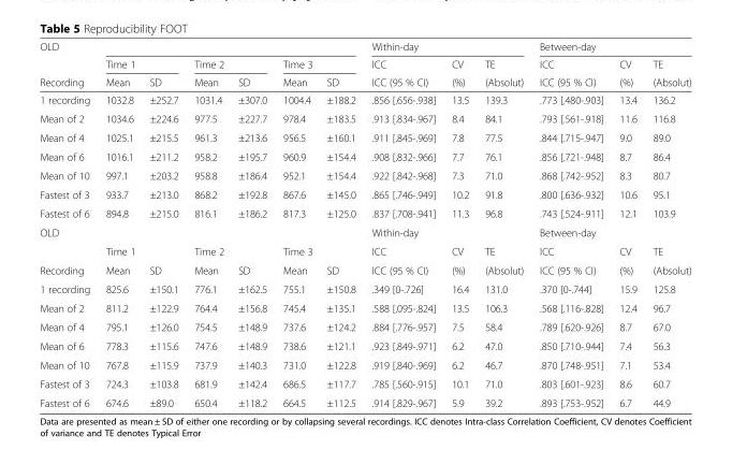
<table><thead><tr><td rowspan="3">OLD Recording</td><td></td><td></td><td></td><td></td><td></td><td></td><td colspan="3">Within-day</td><td colspan="3">Between-day</td></tr><tr><td colspan="2">Time 1</td><td colspan="2">Time 2</td><td colspan="2">Time 3</td><td rowspan="2">ICC ICC (95 % CI)</td><td rowspan="2">CV (%)</td><td rowspan="2">TE (Absolut)</td><td rowspan="2">ICC ICC (95 % CI)</td><td rowspan="2">CV (%)</td><td rowspan="2">TE (Absolut)</td></tr><tr><td>Mean</td><td>SD</td><td>Mean</td><td>SD</td><td>Mean</td><td>SD</td></tr></thead><tbody><tr><td>1 recording</td><td>1032.8</td><td>±252.7</td><td>1031.4</td><td>±307.0</td><td>1004.4</td><td>±188.2</td><td>.856 [.656-.938]</td><td>13.5</td><td>139.3</td><td>.773 [.480-.903]</td><td>13.4</td><td>136.2</td></tr><tr><td>Mean of 2</td><td>1034.6</td><td>±224.6</td><td>977.5</td><td>±227.7</td><td>978.4</td><td>±183.5</td><td>.913 [.834-.967]</td><td>8.4</td><td>84.1</td><td>.793 [.561-.918]</td><td>11.6</td><td>116.8</td></tr><tr><td>Mean of 4</td><td>1025.1</td><td>±215.5</td><td>961.3</td><td>±213.6</td><td>956.5</td><td>±160.1</td><td>.911 [.845-.969]</td><td>7.8</td><td>77.5</td><td>.844 [.715-.947]</td><td>9.0</td><td>89.0</td></tr><tr><td>Mean of 6</td><td>1016.1</td><td>±211.2</td><td>958.2</td><td>±195.7</td><td>960.9</td><td>±154.4</td><td>.908 [.832-.966]</td><td>7.7</td><td>76.1</td><td>.856 [.721-.948]</td><td>8.7</td><td>86.4</td></tr><tr><td>Mean of 10</td><td>997.1</td><td>±203.2</td><td>958.8</td><td>±186.4</td><td>952.1</td><td>±154.4</td><td>.922 [.842-.968]</td><td>7.3</td><td>71.0</td><td>.868 [.742-.952]</td><td>8.3</td><td>80.7</td></tr><tr><td>Fastest of 3</td><td>933.7</td><td>±213.0</td><td>868.2</td><td>±192.8</td><td>867.6</td><td>±145.0</td><td>.865 [.746-.949]</td><td>10.2</td><td>91.8</td><td>.800 [.636-.932]</td><td>10.6</td><td>95.1</td></tr><tr><td>Fastest of 6</td><td>894.8</td><td>±215.0</td><td>816.1</td><td>±186.2</td><td>817.3</td><td>±125.0</td><td>.837 [.708-.941]</td><td>11.3</td><td>96.8</td><td>.743 [.524-.911]</td><td>12.1</td><td>103.9</td></tr><tr><td rowspan="2">OLD</td><td colspan="6"></td><td colspan="3">Within-day</td><td colspan="3">Between-day</td></tr><tr><td colspan="2">Time 1</td><td colspan="2">Time 2</td><td colspan="2">Time 3</td><td>ICC</td><td>CV</td><td>TE</td><td>ICC</td><td>CV</td><td>TE</td></tr><tr><td>Recording</td><td>Mean</td><td>SD</td><td>Mean</td><td>SD</td><td>Mean</td><td>SD</td><td>ICC (95 % CI)</td><td>(%)</td><td>(Absolut)</td><td>ICC (95 % CI)</td><td>(%)</td><td>(Absolut)</td></tr><tr><td>1 recording</td><td>825.6</td><td>±150.1</td><td>776.1</td><td>±162.5</td><td>755.1</td><td>±150.8</td><td>.349 [0-.726]</td><td>16.4</td><td>131.0</td><td>.370 [0-.744]</td><td>15.9</td><td>125.8</td></tr><tr><td>Mean of 2</td><td>811.2</td><td>±122.9</td><td>764.4</td><td>±156.8</td><td>745.4</td><td>±135.1</td><td>.588 [.095-.824]</td><td>13.5</td><td>106.3</td><td>.568 [.116-.828]</td><td>12.4</td><td>96.7</td></tr><tr><td>Mean of 4</td><td>795.1</td><td>±126.0</td><td>754.5</td><td>±148.9</td><td>737.6</td><td>±124.2</td><td>.884 [.776-.957]</td><td>7.5</td><td>58.4</td><td>.789 [.620-.926]</td><td>8.7</td><td>67.0</td></tr><tr><td>Mean of 6</td><td>778.3</td><td>±115.6</td><td>747.6</td><td>±148.9</td><td>738.6</td><td>±121.1</td><td>.923 [.849-.971]</td><td>6.2</td><td>47.0</td><td>.850 [.710-.944]</td><td>7.4</td><td>56.3</td></tr><tr><td>Mean of 10</td><td>767.8</td><td>±115.9</td><td>737.9</td><td>±140.3</td><td>731.0</td><td>±122.8</td><td>.919 [.840-.969]</td><td>6.2</td><td>46.7</td><td>.870 [.748-.951]</td><td>7.1</td><td>53.4</td></tr><tr><td>Fastest of 3</td><td>724.3</td><td>±103.8</td><td>681.9</td><td>±142.4</td><td>686.5</td><td>±117.7</td><td>.785 [.560-.915]</td><td>10.1</td><td>71.0</td><td>.803 [.601-.923]</td><td>8.6</td><td>60.7</td></tr><tr><td>Fastest of 6</td><td>674.6</td><td>±89.0</td><td>650.4</td><td>±118.2</td><td>664.5</td><td>±112.5</td><td>.914 [.829-.967]</td><td>5.9</td><td>39.2</td><td>.893 [.753-.952]</td><td>6.7</td><td>44.9</td></tr></tbody></table>